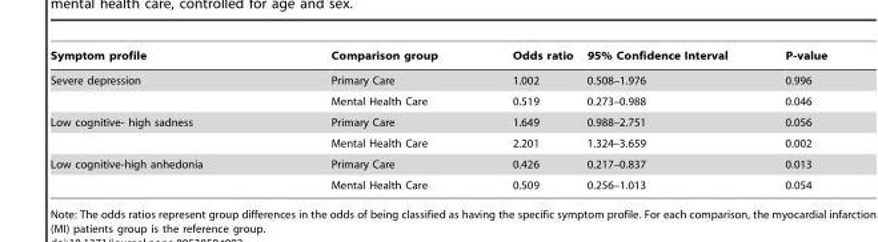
<table><thead><tr><td>Symptom profile</td><td>Comparison group</td><td>Odds ratio</td><td>95% Confidence Interval</td><td>P-value</td></tr></thead><tbody><tr><td rowspan="2">Severe depression</td><td>Primary Care</td><td>1.002</td><td>0.508–1.976</td><td>0.996</td></tr><tr><td>Mental Health Care</td><td>0.519</td><td>0.273–0.988</td><td>0.046</td></tr><tr><td rowspan="2">Low cognitive- high sadness</td><td>Primary Care</td><td>1.649</td><td>0.988–2.751</td><td>0.056</td></tr><tr><td>Mental Health Care</td><td>2.201</td><td>1.324–3.659</td><td>0.002</td></tr><tr><td rowspan="2">Low cognitive-high anhedonia</td><td>Primary Care</td><td>0.426</td><td>0.217–0.837</td><td>0.013</td></tr><tr><td>Mental Health Care</td><td>0.509</td><td>0.256–1.013</td><td>0.054</td></tr></tbody></table>